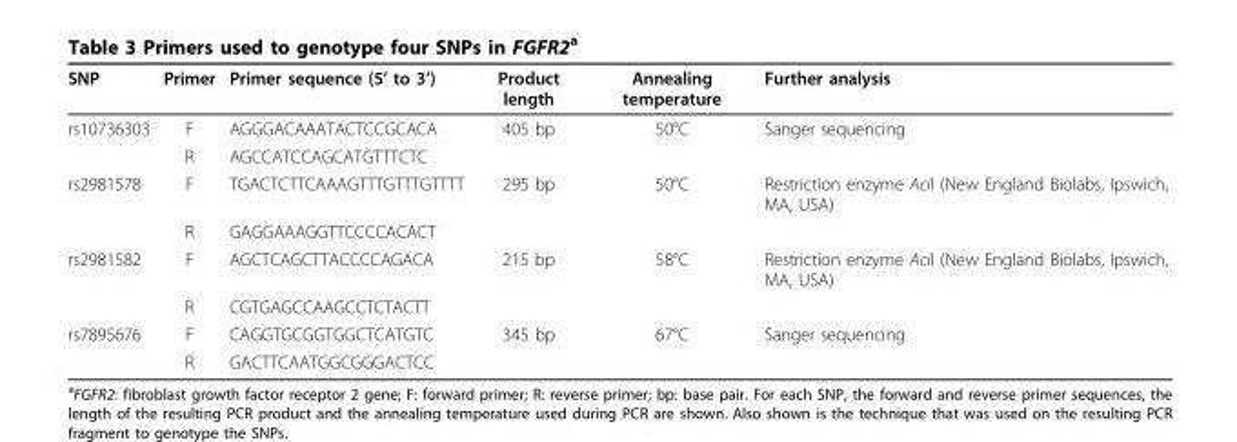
<table><thead><tr><td>SNP</td><td>Primer</td><td>Primer sequence (5’ to 3’)</td><td>Product length</td><td>Annealing temperature</td><td>Further analysis</td></tr></thead><tbody><tr><td rowspan="2">rs10736303</td><td>F</td><td>AGGGACAAATACTCCGCACA</td><td>405 bp</td><td>50°C</td><td>Sanger sequencing</td></tr><tr><td>R</td><td>AGCCATCCAGCATGTTTCTC</td><td></td><td></td><td></td></tr><tr><td rowspan="2">rs2981578</td><td>F</td><td>TGACTCTTCAAAGTTTGTTTGTTTT</td><td>295 bp</td><td>50°C</td><td>Restriction enzyme AciI (New England Biolabs, Ipswich, MA, USA)</td></tr><tr><td>R</td><td>GAGGAAAGGTTCCCCACACT</td><td></td><td></td><td></td></tr><tr><td rowspan="2">rs2981582</td><td>F</td><td>AGCTCAGCTTACCCCAGACA</td><td>215 bp</td><td>58°C</td><td>Restriction enzyme AciI (New England Biolabs, Ipswich, MA, USA)</td></tr><tr><td>R</td><td>CGTGAGCCAAGCCTCTACTT</td><td></td><td></td><td></td></tr><tr><td rowspan="2">rs7895676</td><td>F</td><td>CAGGTGCGGTGGCTCATGTC</td><td>345 bp</td><td>67°C</td><td>Sanger sequencing</td></tr><tr><td>R</td><td>GACTTCAATGGCGGGACTCC</td><td></td><td></td><td></td></tr></tbody></table>